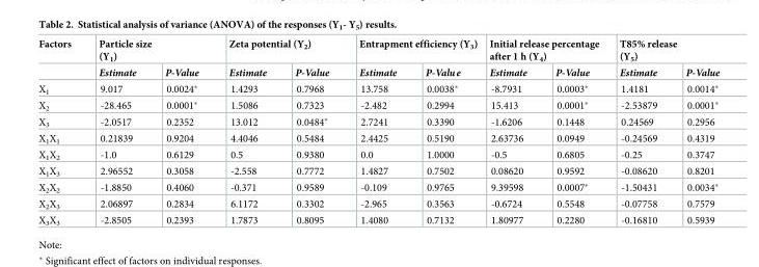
<table><thead><tr><td rowspan="2">Factors</td><td colspan="2">Particle size (Y<sub>1</sub>)</td><td colspan="2">Zeta potential (Y<sub>2</sub>)</td><td colspan="2">Entrapment efficiency (Y<sub>3</sub>)</td><td colspan="2">Initial release percentage after 1 h (Y<sub>4</sub>)</td><td colspan="2">T85% release (Y<sub>5</sub>)</td></tr><tr><td>Estimate</td><td>P-Value</td><td>Estimate</td><td>P-Value</td><td>Estimate</td><td>P-Value</td><td>Estimate</td><td>P-Value</td><td>Estimate</td><td>P-Value</td></tr></thead><tbody><tr><td>X<sub>1</sub></td><td>9.017</td><td>0.0024*</td><td>1.4293</td><td>0.7968</td><td>13.758</td><td>0.0038*</td><td>-8.7931</td><td>0.0003*</td><td>1.4181</td><td>0.0014*</td></tr><tr><td>X<sub>2</sub></td><td>-28.465</td><td>0.0001*</td><td>1.5086</td><td>0.7323</td><td>-2.482</td><td>0.2994</td><td>15.413</td><td>0.0001*</td><td>-2.53879</td><td>0.0001*</td></tr><tr><td>X<sub>3</sub></td><td>-2.0517</td><td>0.2352</td><td>13.012</td><td>0.0484*</td><td>2.7241</td><td>0.3390</td><td>-1.6206</td><td>0.1448</td><td>0.24569</td><td>0.2956</td></tr><tr><td>X<sub>1</sub>X<sub>1</sub></td><td>0.21839</td><td>0.9204</td><td>4.4046</td><td>0.5484</td><td>2.4425</td><td>0.5190</td><td>2.63736</td><td>0.0949</td><td>-0.24569</td><td>0.4319</td></tr><tr><td>X<sub>1</sub>X<sub>2</sub></td><td>-1.0</td><td>0.6129</td><td>0.5</td><td>0.9380</td><td>0.0</td><td>1.0000</td><td>-0.5</td><td>0.6805</td><td>-0.25</td><td>0.3747</td></tr><tr><td>X<sub>1</sub>X<sub>3</sub></td><td>2.96552</td><td>0.3058</td><td>-2.558</td><td>0.7772</td><td>1.4827</td><td>0.7502</td><td>0.08620</td><td>0.9592</td><td>-0.08620</td><td>0.8201</td></tr><tr><td>X<sub>2</sub>X<sub>2</sub></td><td>-1.8850</td><td>0.4060</td><td>-0.371</td><td>0.9589</td><td>-0.109</td><td>0.9765</td><td>9.39598</td><td>0.0007*</td><td>-1.50431</td><td>0.0034*</td></tr><tr><td>X<sub>2</sub>X<sub>3</sub></td><td>2.06897</td><td>0.2834</td><td>6.1172</td><td>0.3302</td><td>-2.965</td><td>0.3563</td><td>-0.6724</td><td>0.5548</td><td>-0.07758</td><td>0.7579</td></tr><tr><td>X<sub>3</sub>X<sub>3</sub></td><td>-2.8505</td><td>0.2393</td><td>1.7873</td><td>0.8095</td><td>1.4080</td><td>0.7132</td><td>1.80977</td><td>0.2280</td><td>-0.16810</td><td>0.5939</td></tr></tbody></table>